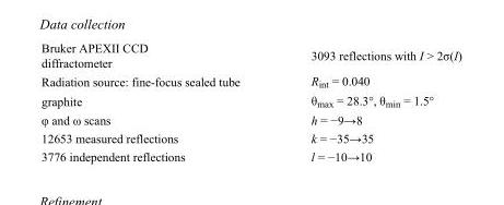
<table><tbody><tr><td>Bruker APEXII CCD diffractometer</td><td>3093 reflections with I &gt; 2σ(I)</td></tr><tr><td>Radiation source: fine-focus sealed tube</td><td>R<sub>int</sub> = 0.040</td></tr><tr><td>graphite</td><td>θ<sub>max</sub> = 28.3°, θ<sub>min</sub> = 1.5°</td></tr><tr><td>φ and ω scans</td><td>h = −9→8</td></tr><tr><td>12653 measured reflections</td><td>k = −35→35</td></tr><tr><td>3776 independent reflections</td><td>l = −10→10</td></tr></tbody></table>